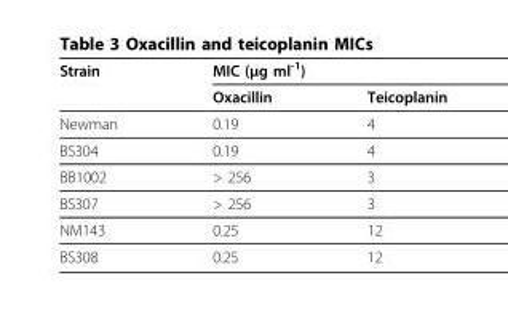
<table><thead><tr><td rowspan="2">Strain</td><td colspan="2">MIC (μg ml<sup>-1</sup>)</td></tr><tr><td>Oxacillin</td><td>Teicoplanin</td></tr></thead><tbody><tr><td>Newman</td><td>0.19</td><td>4</td></tr><tr><td>BS304</td><td>0.19</td><td>4</td></tr><tr><td>BB1002</td><td>&gt; 256</td><td>3</td></tr><tr><td>BS307</td><td>&gt; 256</td><td>3</td></tr><tr><td>NM143</td><td>0.25</td><td>12</td></tr><tr><td>BS308</td><td>0.25</td><td>12</td></tr></tbody></table>